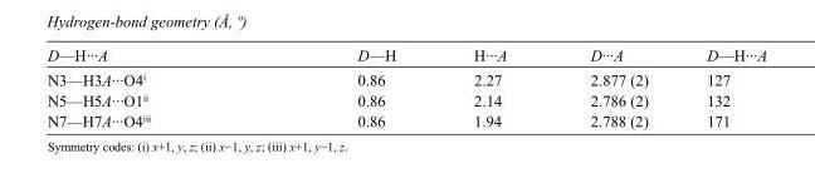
<table><tbody><tr><td>D—H···A</td><td>D—H</td><td>H···A</td><td>D···A</td><td>D—H···A</td></tr><tr><td>N3—H3A···O4<sup>i</sup></td><td>0.86</td><td>2.27</td><td>2.877 (2)</td><td>127</td></tr><tr><td>N5—H5A···O1<sup>ii</sup></td><td>0.86</td><td>2.14</td><td>2.786 (2)</td><td>132</td></tr><tr><td>N7—H7A···O4<sup>iii</sup></td><td>0.86</td><td>1.94</td><td>2.788 (2)</td><td>171</td></tr></tbody></table>